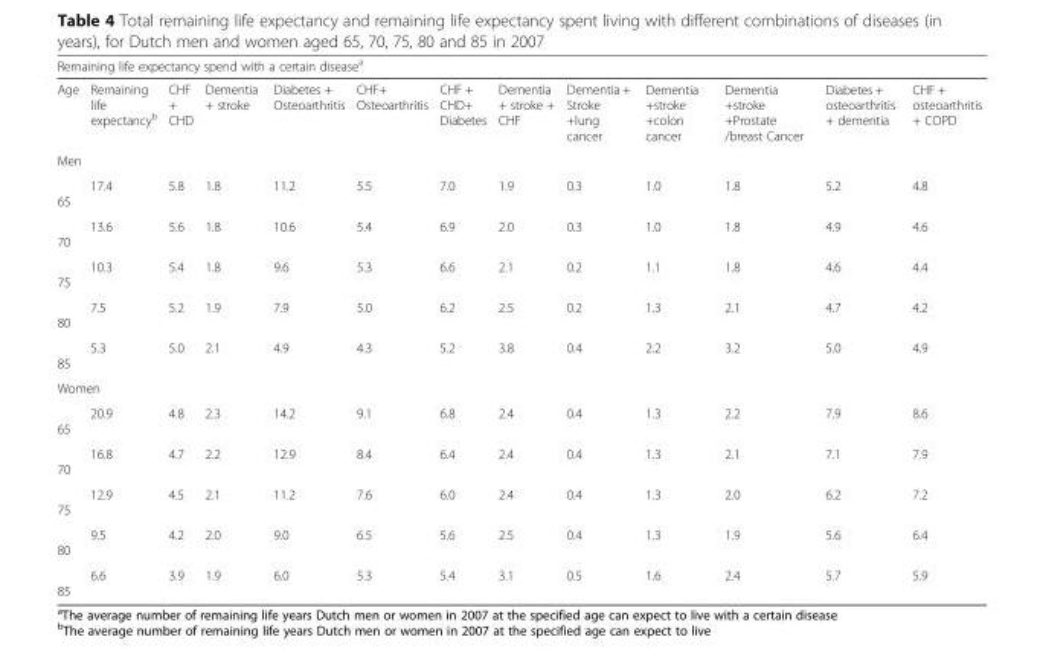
<table><thead><tr><td colspan="13">Remaining life expectancy spend with a certain disease<sup>a</sup></td></tr><tr><td>Age</td><td>Remaining life expectancy<sup>b</sup></td><td>CHF + CHD</td><td>Dementia + stroke</td><td>Diabetes + Osteoarthritis</td><td>CHF+ Osteoarthritis</td><td>CHF + CHD+ Diabetes</td><td>Dementia + stroke + CHF</td><td>Dementia + Stroke +lung cancer</td><td>Dementia +stroke +colon cancer</td><td>Dementia +stroke +Prostate /breast Cancer</td><td>Diabetes + osteoarthritis + dementia</td><td>CHF + osteoarthritis + COPD</td></tr></thead><tbody><tr><td colspan="13">Men</td></tr><tr><td>65</td><td>17.4</td><td>5.8</td><td>1.8</td><td>11.2</td><td>5.5</td><td>7.0</td><td>1.9</td><td>0.3</td><td>1.0</td><td>1.8</td><td>5.2</td><td>4.8</td></tr><tr><td>70</td><td>13.6</td><td>5.6</td><td>1.8</td><td>10.6</td><td>5.4</td><td>6.9</td><td>2.0</td><td>0.3</td><td>1.0</td><td>1.8</td><td>4.9</td><td>4.6</td></tr><tr><td>75</td><td>10.3</td><td>5.4</td><td>1.8</td><td>9.6</td><td>5.3</td><td>6.6</td><td>2.1</td><td>0.2</td><td>1.1</td><td>1.8</td><td>4.6</td><td>4.4</td></tr><tr><td>80</td><td>7.5</td><td>5.2</td><td>1.9</td><td>7.9</td><td>5.0</td><td>6.2</td><td>2.5</td><td>0.2</td><td>1.3</td><td>2.1</td><td>4.7</td><td>4.2</td></tr><tr><td>85</td><td>5.3</td><td>5.0</td><td>2.1</td><td>4.9</td><td>4.3</td><td>5.2</td><td>3.8</td><td>0.4</td><td>2.2</td><td>3.2</td><td>5.0</td><td>4.9</td></tr><tr><td colspan="13">Women</td></tr><tr><td>65</td><td>20.9</td><td>4.8</td><td>2.3</td><td>14.2</td><td>9.1</td><td>6.8</td><td>2.4</td><td>0.4</td><td>1.3</td><td>2.2</td><td>7.9</td><td>8.6</td></tr><tr><td>70</td><td>16.8</td><td>4.7</td><td>2.2</td><td>12.9</td><td>8.4</td><td>6.4</td><td>2.4</td><td>0.4</td><td>1.3</td><td>2.1</td><td>7.1</td><td>7.9</td></tr><tr><td>75</td><td>12.9</td><td>4.5</td><td>2.1</td><td>11.2</td><td>7.6</td><td>6.0</td><td>2.4</td><td>0.4</td><td>1.3</td><td>2.0</td><td>6.2</td><td>7.2</td></tr><tr><td>80</td><td>9.5</td><td>4.2</td><td>2.0</td><td>9.0</td><td>6.5</td><td>5.6</td><td>2.5</td><td>0.4</td><td>1.3</td><td>1.9</td><td>5.6</td><td>6.4</td></tr><tr><td>85</td><td>6.6</td><td>3.9</td><td>1.9</td><td>6.0</td><td>5.3</td><td>5.4</td><td>3.1</td><td>0.5</td><td>1.6</td><td>2.4</td><td>5.7</td><td>5.9</td></tr></tbody></table>